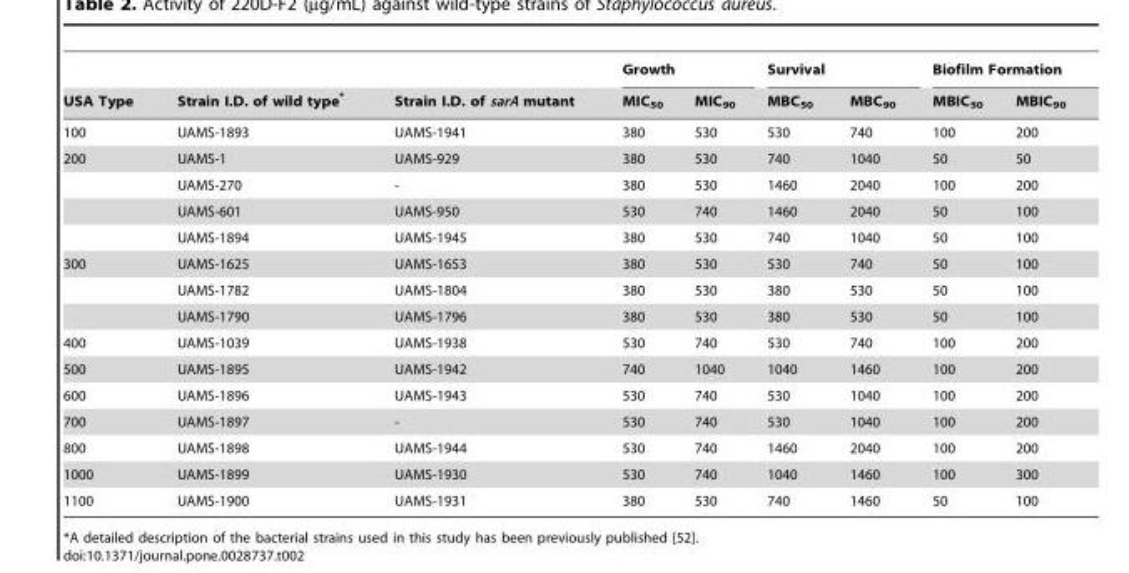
<table><thead><tr><td rowspan="2">USA Type</td><td rowspan="2">Strain I.D. of wild type*</td><td rowspan="2">Strain I.D. of sarA mutant</td><td colspan="2">Growth</td><td colspan="2">Survival</td><td colspan="2">Biofilm Formation</td></tr><tr><td>MIC<sub>50</sub></td><td>MIC<sub>90</sub></td><td>MBC<sub>50</sub></td><td>MBC<sub>90</sub></td><td>MBIC<sub>50</sub></td><td>MBIC<sub>90</sub></td></tr></thead><tbody><tr><td>100</td><td>UAMS-1893</td><td>UAMS-1941</td><td>380</td><td>530</td><td>530</td><td>740</td><td>100</td><td>200</td></tr><tr><td rowspan="4">200</td><td>UAMS-1</td><td>UAMS-929</td><td>380</td><td>530</td><td>740</td><td>1040</td><td>50</td><td>50</td></tr><tr><td>UAMS-270</td><td>-</td><td>380</td><td>530</td><td>1460</td><td>2040</td><td>100</td><td>200</td></tr><tr><td>UAMS-601</td><td>UAMS-950</td><td>530</td><td>740</td><td>1460</td><td>2040</td><td>50</td><td>100</td></tr><tr><td>UAMS-1894</td><td>UAMS-1945</td><td>380</td><td>530</td><td>740</td><td>1040</td><td>50</td><td>100</td></tr><tr><td rowspan="3">300</td><td>UAMS-1625</td><td>UAMS-1653</td><td>380</td><td>530</td><td>530</td><td>740</td><td>50</td><td>100</td></tr><tr><td>UAMS-1782</td><td>UAMS-1804</td><td>380</td><td>530</td><td>380</td><td>530</td><td>50</td><td>100</td></tr><tr><td>UAMS-1790</td><td>UAMS-1796</td><td>380</td><td>530</td><td>380</td><td>530</td><td>50</td><td>100</td></tr><tr><td>400</td><td>UAMS-1039</td><td>UAMS-1938</td><td>530</td><td>740</td><td>530</td><td>740</td><td>100</td><td>200</td></tr><tr><td>500</td><td>UAMS-1895</td><td>UAMS-1942</td><td>740</td><td>1040</td><td>1040</td><td>1460</td><td>100</td><td>200</td></tr><tr><td>600</td><td>UAMS-1896</td><td>UAMS-1943</td><td>530</td><td>740</td><td>530</td><td>1040</td><td>100</td><td>200</td></tr><tr><td>700</td><td>UAMS-1897</td><td>-</td><td>530</td><td>740</td><td>530</td><td>1040</td><td>100</td><td>200</td></tr><tr><td>800</td><td>UAMS-1898</td><td>UAMS-1944</td><td>530</td><td>740</td><td>1460</td><td>2040</td><td>100</td><td>200</td></tr><tr><td>1000</td><td>UAMS-1899</td><td>UAMS-1930</td><td>530</td><td>740</td><td>1040</td><td>1460</td><td>100</td><td>300</td></tr><tr><td>1100</td><td>UAMS-1900</td><td>UAMS-1931</td><td>380</td><td>530</td><td>740</td><td>1460</td><td>50</td><td>100</td></tr></tbody></table>